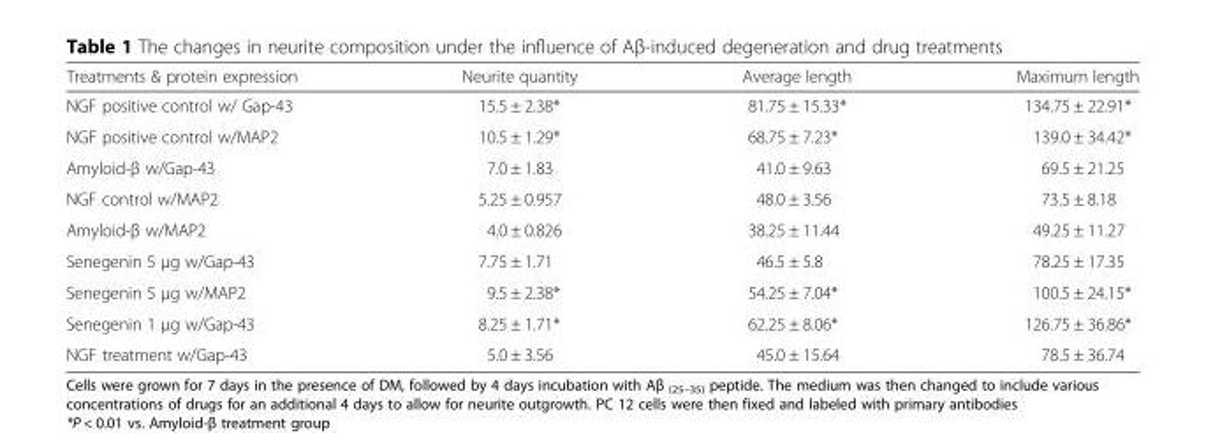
<table><thead><tr><td>Treatments &amp; protein expression</td><td>Neurite quantity</td><td>Average length</td><td>Maximum length</td></tr></thead><tbody><tr><td>NGF positive control w/ Gap-43</td><td>15.5 ± 2.38*</td><td>81.75 ± 15.33*</td><td>134.75 ± 22.91*</td></tr><tr><td>NGF positive control w/MAP2</td><td>10.5 ± 1.29*</td><td>68.75 ± 7.23*</td><td>139.0 ± 34.42*</td></tr><tr><td>Amyloid-β w/Gap-43</td><td>7.0 ± 1.83</td><td>41.0 ± 9.63</td><td>69.5 ± 21.25</td></tr><tr><td>NGF control w/MAP2</td><td>5.25 ± 0.957</td><td>48.0 ± 3.56</td><td>73.5 ± 8.18</td></tr><tr><td>Amyloid-β w/MAP2</td><td>4.0 ± 0.826</td><td>38.25 ± 11.44</td><td>49.25 ± 11.27</td></tr><tr><td>Senegenin 5 μg w/Gap-43</td><td>7.75 ± 1.71</td><td>46.5 ± 5.8</td><td>78.25 ± 17.35</td></tr><tr><td>Senegenin 5 μg w/MAP2</td><td>9.5 ± 2.38*</td><td>54.25 ± 7.04*</td><td>100.5 ± 24.15*</td></tr><tr><td>Senegenin 1 μg w/Gap-43</td><td>8.25 ± 1.71*</td><td>62.25 ± 8.06*</td><td>126.75 ± 36.86*</td></tr><tr><td>NGF treatment w/Gap-43</td><td>5.0 ± 3.56</td><td>45.0 ± 15.64</td><td>78.5 ± 36.74</td></tr></tbody></table>